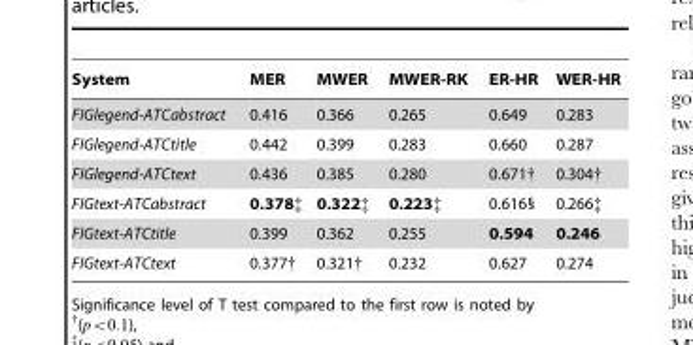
<table><thead><tr><td>System</td><td>MER</td><td>MWER</td><td>MWER-RK</td><td>ER-HR</td><td>WER-HR</td></tr></thead><tbody><tr><td>FIGlegend-ATCabstract</td><td>0.416</td><td>0.366</td><td>0.265</td><td>0.649</td><td>0.283</td></tr><tr><td>FIGlegend-ATCtitle</td><td>0.442</td><td>0.399</td><td>0.283</td><td>0.660</td><td>0.287</td></tr><tr><td>FIGlegend-ATCtext</td><td>0.436</td><td>0.385</td><td>0.280</td><td>0.671†</td><td>0.304†</td></tr><tr><td>FIGtext-ATCabstract</td><td>0.378‡</td><td>0.322‡</td><td>0.223‡</td><td>0.616§</td><td>0.266‡</td></tr><tr><td>FIGtext-ATCtitle</td><td>0.399</td><td>0.362</td><td>0.255</td><td>0.594</td><td>0.246</td></tr><tr><td>FIGtext-ATCtext</td><td>0.377†</td><td>0.321†</td><td>0.232</td><td>0.627</td><td>0.274</td></tr></tbody></table>